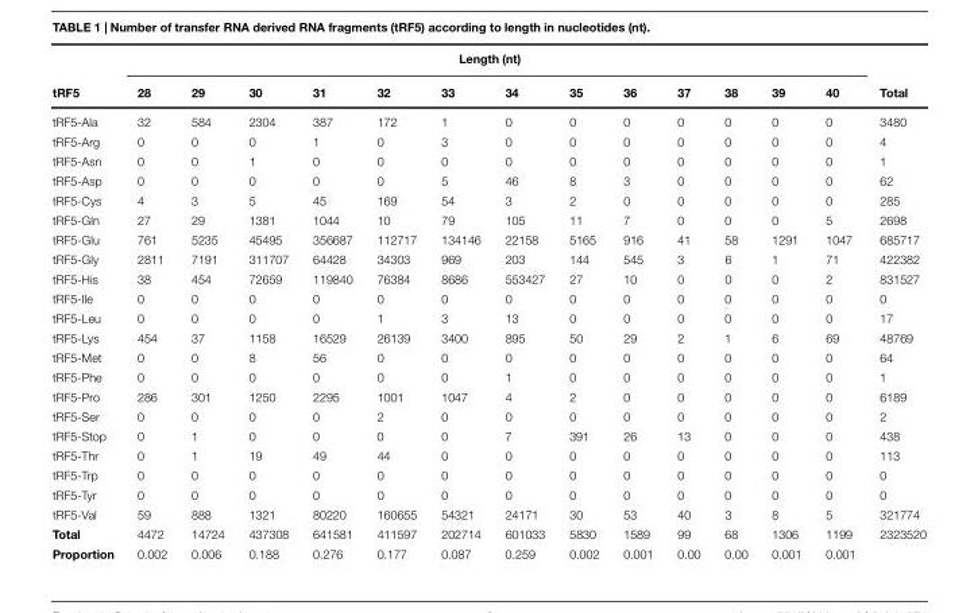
<table><thead><tr><td rowspan="2">tRF5</td><td colspan="14">Length (nt)</td></tr><tr><td>28</td><td>29</td><td>30</td><td>31</td><td>32</td><td>33</td><td>34</td><td>35</td><td>36</td><td>37</td><td>38</td><td>39</td><td>40</td><td>Total</td></tr></thead><tbody><tr><td>tRF5-Ala</td><td>32</td><td>584</td><td>2304</td><td>387</td><td>172</td><td>1</td><td>0</td><td>0</td><td>0</td><td>0</td><td>0</td><td>0</td><td>0</td><td>3480</td></tr><tr><td>tRF5-Arg</td><td>0</td><td>0</td><td>0</td><td>1</td><td>0</td><td>3</td><td>0</td><td>0</td><td>0</td><td>0</td><td>0</td><td>0</td><td>0</td><td>4</td></tr><tr><td>tRF5-Asn</td><td>0</td><td>0</td><td>1</td><td>0</td><td>0</td><td>0</td><td>0</td><td>0</td><td>0</td><td>0</td><td>0</td><td>0</td><td>0</td><td>1</td></tr><tr><td>tRF5-Asp</td><td>0</td><td>0</td><td>0</td><td>0</td><td>0</td><td>5</td><td>46</td><td>8</td><td>3</td><td>0</td><td>0</td><td>0</td><td>0</td><td>62</td></tr><tr><td>tRF5-Cys</td><td>4</td><td>3</td><td>5</td><td>45</td><td>169</td><td>54</td><td>3</td><td>2</td><td>0</td><td>0</td><td>0</td><td>0</td><td>0</td><td>285</td></tr><tr><td>tRF5-Gln</td><td>27</td><td>29</td><td>1381</td><td>1044</td><td>10</td><td>79</td><td>105</td><td>11</td><td>7</td><td>0</td><td>0</td><td>0</td><td>5</td><td>2698</td></tr><tr><td>tRF5-Glu</td><td>761</td><td>5235</td><td>45495</td><td>356687</td><td>112717</td><td>134146</td><td>22158</td><td>5165</td><td>916</td><td>41</td><td>58</td><td>1291</td><td>1047</td><td>685717</td></tr><tr><td>tRF5-Gly</td><td>2811</td><td>7191</td><td>311707</td><td>64428</td><td>34303</td><td>969</td><td>203</td><td>144</td><td>545</td><td>3</td><td>6</td><td>1</td><td>71</td><td>422382</td></tr><tr><td>tRF5-His</td><td>38</td><td>454</td><td>72659</td><td>119840</td><td>76384</td><td>8686</td><td>553427</td><td>27</td><td>10</td><td>0</td><td>0</td><td>0</td><td>2</td><td>831527</td></tr><tr><td>tRF5-Ile</td><td>0</td><td>0</td><td>0</td><td>0</td><td>0</td><td>0</td><td>0</td><td>0</td><td>0</td><td>0</td><td>0</td><td>0</td><td>0</td><td>0</td></tr><tr><td>tRF5-Leu</td><td>0</td><td>0</td><td>0</td><td>0</td><td>1</td><td>3</td><td>13</td><td>0</td><td>0</td><td>0</td><td>0</td><td>0</td><td>0</td><td>17</td></tr><tr><td>tRF5-Lys</td><td>454</td><td>37</td><td>1158</td><td>16529</td><td>26139</td><td>3400</td><td>895</td><td>50</td><td>29</td><td>2</td><td>1</td><td>6</td><td>69</td><td>48769</td></tr><tr><td>tRF5-Met</td><td>0</td><td>0</td><td>8</td><td>56</td><td>0</td><td>0</td><td>0</td><td>0</td><td>0</td><td>0</td><td>0</td><td>0</td><td>0</td><td>64</td></tr><tr><td>tRF5-Phe</td><td>0</td><td>0</td><td>0</td><td>0</td><td>0</td><td>0</td><td>1</td><td>0</td><td>0</td><td>0</td><td>0</td><td>0</td><td>0</td><td>1</td></tr><tr><td>tRF5-Pro</td><td>286</td><td>301</td><td>1250</td><td>2295</td><td>1001</td><td>1047</td><td>4</td><td>2</td><td>0</td><td>0</td><td>0</td><td>0</td><td>0</td><td>6189</td></tr><tr><td>tRF5-Ser</td><td>0</td><td>0</td><td>0</td><td>0</td><td>2</td><td>0</td><td>0</td><td>0</td><td>0</td><td>0</td><td>0</td><td>0</td><td>0</td><td>2</td></tr><tr><td>tRF5-Stop</td><td>0</td><td>1</td><td>0</td><td>0</td><td>0</td><td>0</td><td>7</td><td>391</td><td>26</td><td>13</td><td>0</td><td>0</td><td>0</td><td>438</td></tr><tr><td>tRF5-Thr</td><td>0</td><td>1</td><td>19</td><td>49</td><td>44</td><td>0</td><td>0</td><td>0</td><td>0</td><td>0</td><td>0</td><td>0</td><td>0</td><td>113</td></tr><tr><td>tRF5-Trp</td><td>0</td><td>0</td><td>0</td><td>0</td><td>0</td><td>0</td><td>0</td><td>0</td><td>0</td><td>0</td><td>0</td><td>0</td><td>0</td><td>0</td></tr><tr><td>tRF5-Tyr</td><td>0</td><td>0</td><td>0</td><td>0</td><td>0</td><td>0</td><td>0</td><td>0</td><td>0</td><td>0</td><td>0</td><td>0</td><td>0</td><td>0</td></tr><tr><td>tRF5-Val</td><td>59</td><td>888</td><td>1321</td><td>80220</td><td>160655</td><td>54321</td><td>24171</td><td>30</td><td>53</td><td>40</td><td>3</td><td>8</td><td>5</td><td>321774</td></tr><tr><td>Total</td><td>4472</td><td>14724</td><td>437308</td><td>641581</td><td>411597</td><td>202714</td><td>601033</td><td>5830</td><td>1589</td><td>99</td><td>68</td><td>1306</td><td>1199</td><td>2323520</td></tr><tr><td>Proportion</td><td>0.002</td><td>0.006</td><td>0.188</td><td>0.276</td><td>0.177</td><td>0.087</td><td>0.259</td><td>0.002</td><td>0.001</td><td>0.00</td><td>0.00</td><td>0.001</td><td>0.001</td><td></td></tr></tbody></table>